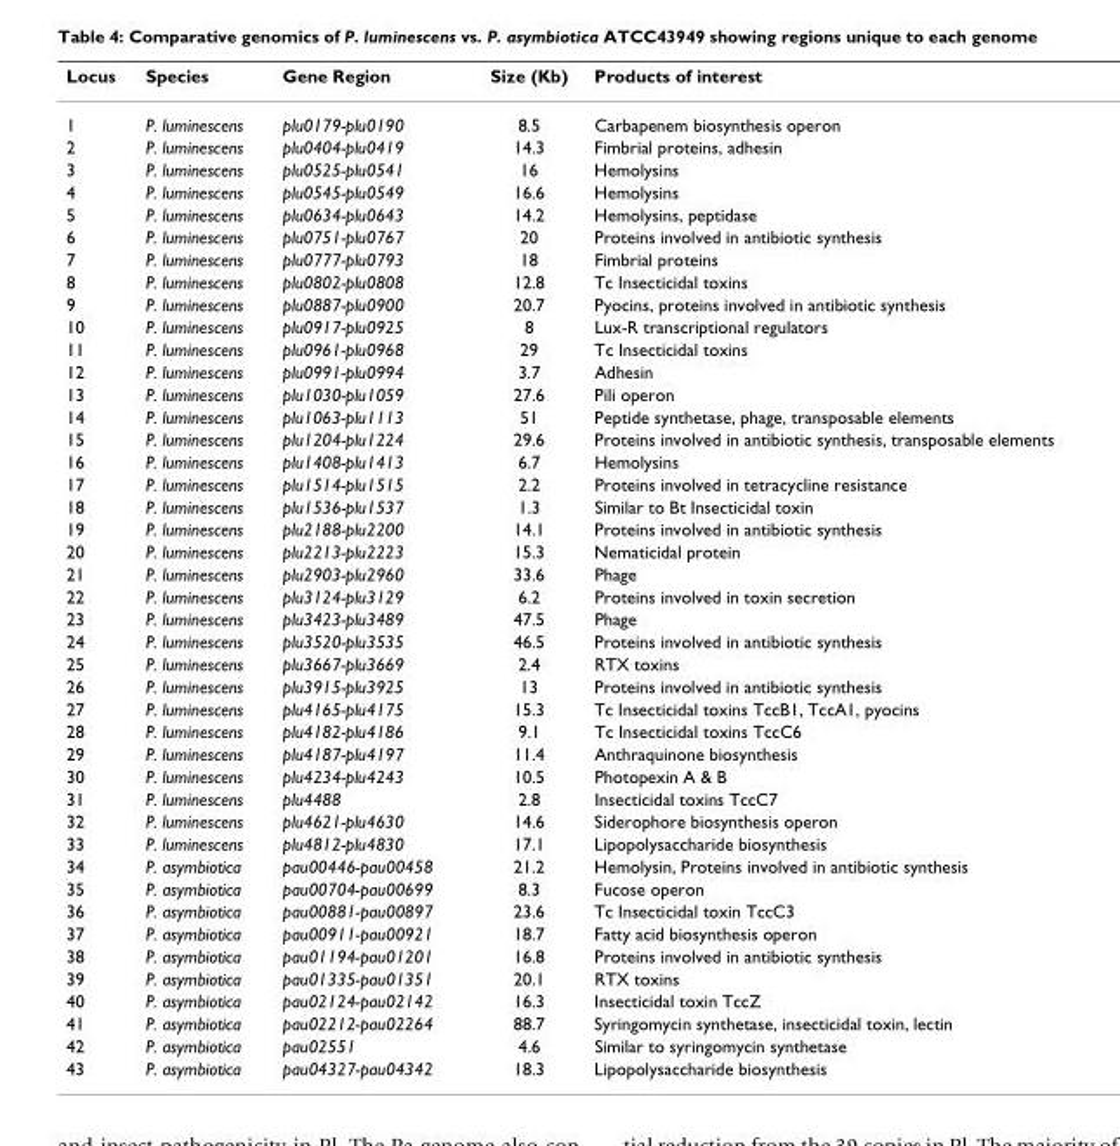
<table><thead><tr><td>Locus</td><td>Species</td><td>Gene Region</td><td>Size (Kb)</td><td>Products of interest</td></tr></thead><tbody><tr><td>1</td><td>P. luminescens</td><td>plu0179-plu0190</td><td>8.5</td><td>Carbapenem biosynthesis operon</td></tr><tr><td>2</td><td>P. luminescens</td><td>plu0404-plu0419</td><td>14.3</td><td>Fimbrial proteins, adhesin</td></tr><tr><td>3</td><td>P. luminescens</td><td>plu0525-plu0541</td><td>16</td><td>Hemolysins</td></tr><tr><td>4</td><td>P. luminescens</td><td>plu0545-plu0549</td><td>16.6</td><td>Hemolysins</td></tr><tr><td>5</td><td>P. luminescens</td><td>plu0634-plu0643</td><td>14.2</td><td>Hemolysins, peptidase</td></tr><tr><td>6</td><td>P. luminescens</td><td>plu0751-plu0767</td><td>20</td><td>Proteins involved in antibiotic synthesis</td></tr><tr><td>7</td><td>P. luminescens</td><td>plu0777-plu0793</td><td>18</td><td>Fimbrial proteins</td></tr><tr><td>8</td><td>P. luminescens</td><td>plu0802-plu0808</td><td>12.8</td><td>Tc Insecticidal toxins</td></tr><tr><td>9</td><td>P. luminescens</td><td>plu0887-plu0900</td><td>20.7</td><td>Pyocins, proteins involved in antibiotic synthesis</td></tr><tr><td>10</td><td>P. luminescens</td><td>plu0917-plu0925</td><td>8</td><td>Lux-R transcriptional regulators</td></tr><tr><td>11</td><td>P. luminescens</td><td>plu0961-plu0968</td><td>29</td><td>Tc Insecticidal toxins</td></tr><tr><td>12</td><td>P. luminescens</td><td>plu0991-plu0994</td><td>3.7</td><td>Adhesin</td></tr><tr><td>13</td><td>P. luminescens</td><td>plu1030-plu1059</td><td>27.6</td><td>Pili operon</td></tr><tr><td>14</td><td>P. luminescens</td><td>plu1063-plu1113</td><td>51</td><td>Peptide synthetase, phage, transposable elements</td></tr><tr><td>15</td><td>P. luminescens</td><td>plu1204-plu1224</td><td>29.6</td><td>Proteins involved in antibiotic synthesis, transposable elements</td></tr><tr><td>16</td><td>P. luminescens</td><td>plu1408-plu1413</td><td>6.7</td><td>Hemolysins</td></tr><tr><td>17</td><td>P. luminescens</td><td>plu1514-plu1515</td><td>2.2</td><td>Proteins involved in tetracycline resistance</td></tr><tr><td>18</td><td>P. luminescens</td><td>plu1536-plu1537</td><td>1.3</td><td>Similar to Bt Insecticidal toxin</td></tr><tr><td>19</td><td>P. luminescens</td><td>plu2188-plu2200</td><td>14.1</td><td>Proteins involved in antibiotic synthesis</td></tr><tr><td>20</td><td>P. luminescens</td><td>plu2213-plu2223</td><td>15.3</td><td>Nematicidal protein</td></tr><tr><td>21</td><td>P. luminescens</td><td>plu2903-plu2960</td><td>33.6</td><td>Phage</td></tr><tr><td>22</td><td>P. luminescens</td><td>plu3124-plu3129</td><td>6.2</td><td>Proteins involved in toxin secretion</td></tr><tr><td>23</td><td>P. luminescens</td><td>plu3423-plu3489</td><td>47.5</td><td>Phage</td></tr><tr><td>24</td><td>P. luminescens</td><td>plu3520-plu3535</td><td>46.5</td><td>Proteins involved in antibiotic synthesis</td></tr><tr><td>25</td><td>P. luminescens</td><td>plu3667-plu3669</td><td>2.4</td><td>RTX toxins</td></tr><tr><td>26</td><td>P. luminescens</td><td>plu3915-plu3925</td><td>13</td><td>Proteins involved in antibiotic synthesis</td></tr><tr><td>27</td><td>P. luminescens</td><td>plu4165-plu4175</td><td>15.3</td><td>Tc Insecticidal toxins TccB1, TccA1, pyocins</td></tr><tr><td>28</td><td>P. luminescens</td><td>plu4182-plu4186</td><td>9.1</td><td>Tc Insecticidal toxins TccC6</td></tr><tr><td>29</td><td>P. luminescens</td><td>plu4187-plu4197</td><td>11.4</td><td>Anthraquinone biosynthesis</td></tr><tr><td>30</td><td>P. luminescens</td><td>plu4234-plu4243</td><td>10.5</td><td>Photopexin A &amp; B</td></tr><tr><td>31</td><td>P. luminescens</td><td>plu4488</td><td>2.8</td><td>Insecticidal toxins TccC7</td></tr><tr><td>32</td><td>P. luminescens</td><td>plu4621-plu4630</td><td>14.6</td><td>Siderophore biosynthesis operon</td></tr><tr><td>33</td><td>P. luminescens</td><td>plu4812-plu4830</td><td>17.1</td><td>Lipopolysaccharide biosynthesis</td></tr><tr><td>34</td><td>P. asymbiotica</td><td>pau00446-pau00458</td><td>21.2</td><td>Hemolysin, Proteins involved in antibiotic synthesis</td></tr><tr><td>35</td><td>P. asymbiotica</td><td>pau00704-pau00699</td><td>8.3</td><td>Fucose operon</td></tr><tr><td>36</td><td>P. asymbiotica</td><td>pau00881-pau00897</td><td>23.6</td><td>Tc Insecticidal toxin TccC3</td></tr><tr><td>37</td><td>P. asymbiotica</td><td>pau00911-pau00921</td><td>18.7</td><td>Fatty acid biosynthesis operon</td></tr><tr><td>38</td><td>P. asymbiotica</td><td>pau01194-pau01201</td><td>16.8</td><td>Proteins involved in antibiotic synthesis</td></tr><tr><td>39</td><td>P. asymbiotica</td><td>pau01335-pau01351</td><td>20.1</td><td>RTX toxins</td></tr><tr><td>40</td><td>P. asymbiotica</td><td>pau02124-pau02142</td><td>16.3</td><td>Insecticidal toxin TccZ</td></tr><tr><td>41</td><td>P. asymbiotica</td><td>pau02212-pau02264</td><td>88.7</td><td>Syringomycin synthetase, insecticidal toxin, lectin</td></tr><tr><td>42</td><td>P. asymbiotica</td><td>pau02551</td><td>4.6</td><td>Similar to syringomycin synthetase</td></tr><tr><td>43</td><td>P. asymbiotica</td><td>pau04327-pau04342</td><td>18.3</td><td>Lipopolysaccharide biosynthesis</td></tr></tbody></table>